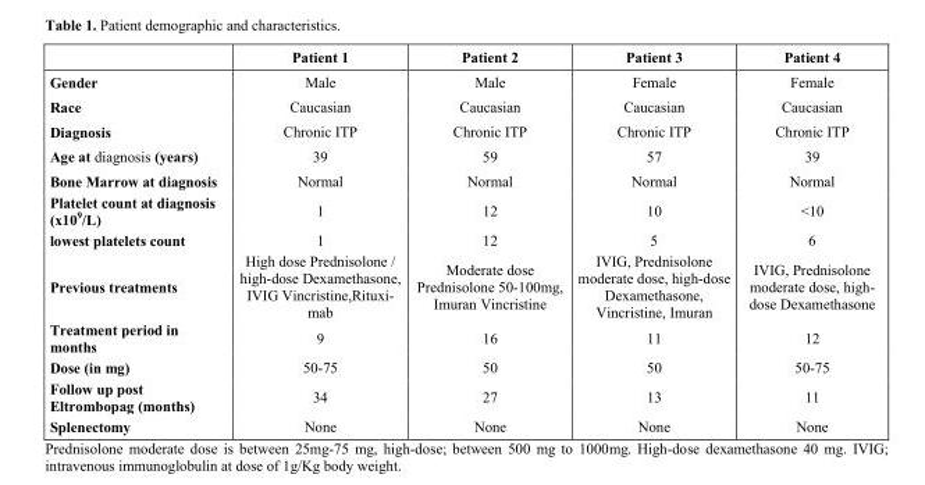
<table><thead><tr><td></td><td>Patient 1</td><td>Patient 2</td><td>Patient 3</td><td>Patient 4</td></tr></thead><tbody><tr><td>Gender</td><td>Male</td><td>Male</td><td>Female</td><td>Female</td></tr><tr><td>Race</td><td>Caucasian</td><td>Caucasian</td><td>Caucasian</td><td>Caucasian</td></tr><tr><td>Diagnosis</td><td>Chronic ITP</td><td>Chronic ITP</td><td>Chronic ITP</td><td>Chronic ITP</td></tr><tr><td>Age at diagnosis (years)</td><td>39</td><td>59</td><td>57</td><td>39</td></tr><tr><td>Bone Marrow at diagnosis</td><td>Normal</td><td>Normal</td><td>Normal</td><td>Normal</td></tr><tr><td>Platelet count at diagnosis (x109/L)</td><td>1</td><td>12</td><td>10</td><td>&lt;10</td></tr><tr><td>lowest platelets count</td><td>1</td><td>12</td><td>5</td><td>6</td></tr><tr><td>Previous treatments</td><td>High dose Prednisolone / high-dose Dexamethasone, IVIG Vincristine,Rituxi- mab</td><td>Moderate dose Prednisolone 50-100mg, Imuran Vincristine</td><td>IVIG, Prednisolone moderate dose, high-dose Dexamethasone, Vincristine, Imuran</td><td>IVIG, Prednisolone moderate dose, high- dose Dexamethasone</td></tr><tr><td>Treatment period in months</td><td>9</td><td>16</td><td>11</td><td>12</td></tr><tr><td>Dose (in mg)</td><td>50-75</td><td>50</td><td>50</td><td>50-75</td></tr><tr><td>Follow up post Eltrombopag (months)</td><td>34</td><td>27</td><td>13</td><td>11</td></tr><tr><td>Splenectomy</td><td>None</td><td>None</td><td>None</td><td>None</td></tr></tbody></table>